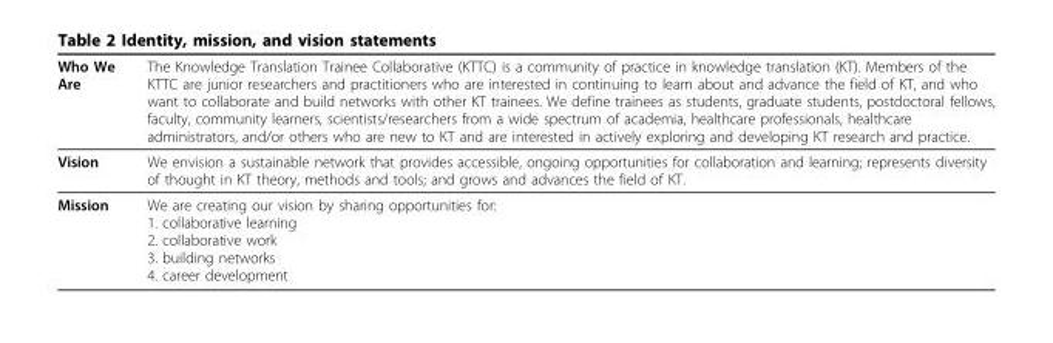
<table><thead><tr><td>Who We Are</td><td>The Knowledge Translation Trainee Collaborative (KTTC) is a community of practice in knowledge translation (KT). Members of the KTTC are junior researchers and practitioners who are interested in continuing to learn about and advance the field of KT, and who want to collaborate and build networks with other KT trainees. We define trainees as students, graduate students, postdoctoral fellows, faculty, community learners, scientists/researchers from a wide spectrum of academia, healthcare professionals, healthcare administrators, and/or others who are new to KT and are interested in actively exploring and developing KT research and practice.</td></tr></thead><tbody><tr><td>Vision</td><td>We envision a sustainable network that provides accessible, ongoing opportunities for collaboration and learning; represents diversity of thought in KT theory, methods and tools; and grows and advances the field of KT.</td></tr><tr><td>Mission</td><td>We are creating our vision by sharing opportunities for: 1. collaborative learning 2. collaborative work 3. building networks 4. career development</td></tr></tbody></table>